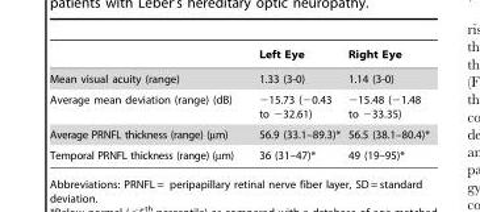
<table><thead><tr><td></td><td>Left Eye</td><td>Right Eye</td></tr></thead><tbody><tr><td>Mean visual acuity (range)</td><td>1.33 (3-0)</td><td>1.14 (3-0)</td></tr><tr><td>Average mean deviation (range) (dB)</td><td>−15.73 (−0.43 to −32.61)</td><td>−15.48 (−1.48 to −33.35)</td></tr><tr><td>Average PRNFL thickness (range) (µm)</td><td>56.9 (33.1–89.3)*</td><td>56.5 (38.1–80.4)*</td></tr><tr><td>Temporal PRNFL thickness (range) (µm)</td><td>36 (31–47)*</td><td>49 (19–95)*</td></tr></tbody></table>